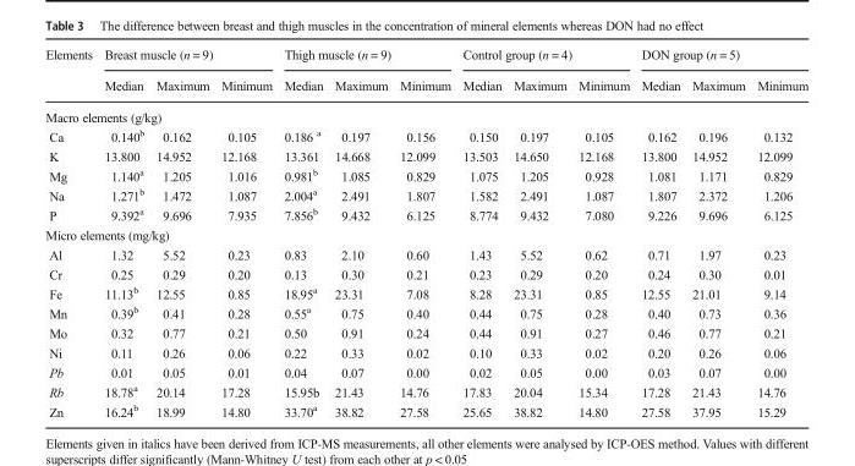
<table><thead><tr><td rowspan="2">Elements</td><td colspan="3">Breast muscle (n = 9)</td><td colspan="3">Thigh muscle (n = 9)</td><td colspan="3">Control group (n = 4)</td><td colspan="3">DON group (n = 5)</td></tr><tr><td>Median</td><td>Maximum</td><td>Minimum</td><td>Median</td><td>Maximum</td><td>Minimum</td><td>Median</td><td>Maximum</td><td>Minimum</td><td>Median</td><td>Maximum</td><td>Minimum</td></tr></thead><tbody><tr><td colspan="13">Macro elements (g/kg)</td></tr><tr><td>Ca</td><td>0.140<sup>b</sup></td><td>0.162</td><td>0.105</td><td>0.186 <sup>a</sup></td><td>0.197</td><td>0.156</td><td>0.150</td><td>0.197</td><td>0.105</td><td>0.162</td><td>0.196</td><td>0.132</td></tr><tr><td>K</td><td>13.800</td><td>14.952</td><td>12.168</td><td>13.361</td><td>14.668</td><td>12.099</td><td>13.503</td><td>14.650</td><td>12.168</td><td>13.800</td><td>14.952</td><td>12.099</td></tr><tr><td>Mg</td><td>1.140<sup>a</sup></td><td>1.205</td><td>1.016</td><td>0.981<sup>b</sup></td><td>1.085</td><td>0.829</td><td>1.075</td><td>1.205</td><td>0.928</td><td>1.081</td><td>1.171</td><td>0.829</td></tr><tr><td>Na</td><td>1.271<sup>b</sup></td><td>1.472</td><td>1.087</td><td>2.004<sup>a</sup></td><td>2.491</td><td>1.807</td><td>1.582</td><td>2.491</td><td>1.087</td><td>1.807</td><td>2.372</td><td>1.206</td></tr><tr><td>P</td><td>9.392<sup>a</sup></td><td>9.696</td><td>7.935</td><td>7.856<sup>b</sup></td><td>9.432</td><td>6.125</td><td>8.774</td><td>9.432</td><td>7.080</td><td>9.226</td><td>9.696</td><td>6.125</td></tr><tr><td colspan="13">Micro elements (mg/kg)</td></tr><tr><td>Al</td><td>1.32</td><td>5.52</td><td>0.23</td><td>0.83</td><td>2.10</td><td>0.60</td><td>1.43</td><td>5.52</td><td>0.62</td><td>0.71</td><td>1.97</td><td>0.23</td></tr><tr><td>Cr</td><td>0.25</td><td>0.29</td><td>0.20</td><td>0.13</td><td>0.30</td><td>0.21</td><td>0.23</td><td>0.29</td><td>0.20</td><td>0.24</td><td>0.30</td><td>0.01</td></tr><tr><td>Fe</td><td>11.13<sup>b</sup></td><td>12.55</td><td>0.85</td><td>18.95<sup>a</sup></td><td>23.31</td><td>7.08</td><td>8.28</td><td>23.31</td><td>0.85</td><td>12.55</td><td>21.01</td><td>9.14</td></tr><tr><td>Mn</td><td>0.39<sup>b</sup></td><td>0.41</td><td>0.28</td><td>0.55<sup>a</sup></td><td>0.75</td><td>0.40</td><td>0.44</td><td>0.75</td><td>0.28</td><td>0.40</td><td>0.73</td><td>0.36</td></tr><tr><td>Mo</td><td>0.32</td><td>0.77</td><td>0.21</td><td>0.50</td><td>0.91</td><td>0.24</td><td>0.44</td><td>0.91</td><td>0.27</td><td>0.46</td><td>0.77</td><td>0.21</td></tr><tr><td>Ni</td><td>0.11</td><td>0.26</td><td>0.06</td><td>0.22</td><td>0.33</td><td>0.02</td><td>0.10</td><td>0.33</td><td>0.02</td><td>0.20</td><td>0.26</td><td>0.06</td></tr><tr><td>Pb</td><td>0.01</td><td>0.05</td><td>0.01</td><td>0.04</td><td>0.07</td><td>0.00</td><td>0.02</td><td>0.05</td><td>0.00</td><td>0.03</td><td>0.07</td><td>0.00</td></tr><tr><td>Rb</td><td>18.78<sup>a</sup></td><td>20.14</td><td>17.28</td><td>15.95b</td><td>21.43</td><td>14.76</td><td>17.83</td><td>20.04</td><td>15.34</td><td>17.28</td><td>21.43</td><td>14.76</td></tr><tr><td>Zn</td><td>16.24<sup>b</sup></td><td>18.99</td><td>14.80</td><td>33.70<sup>a</sup></td><td>38.82</td><td>27.58</td><td>25.65</td><td>38.82</td><td>14.80</td><td>27.58</td><td>37.95</td><td>15.29</td></tr></tbody></table>